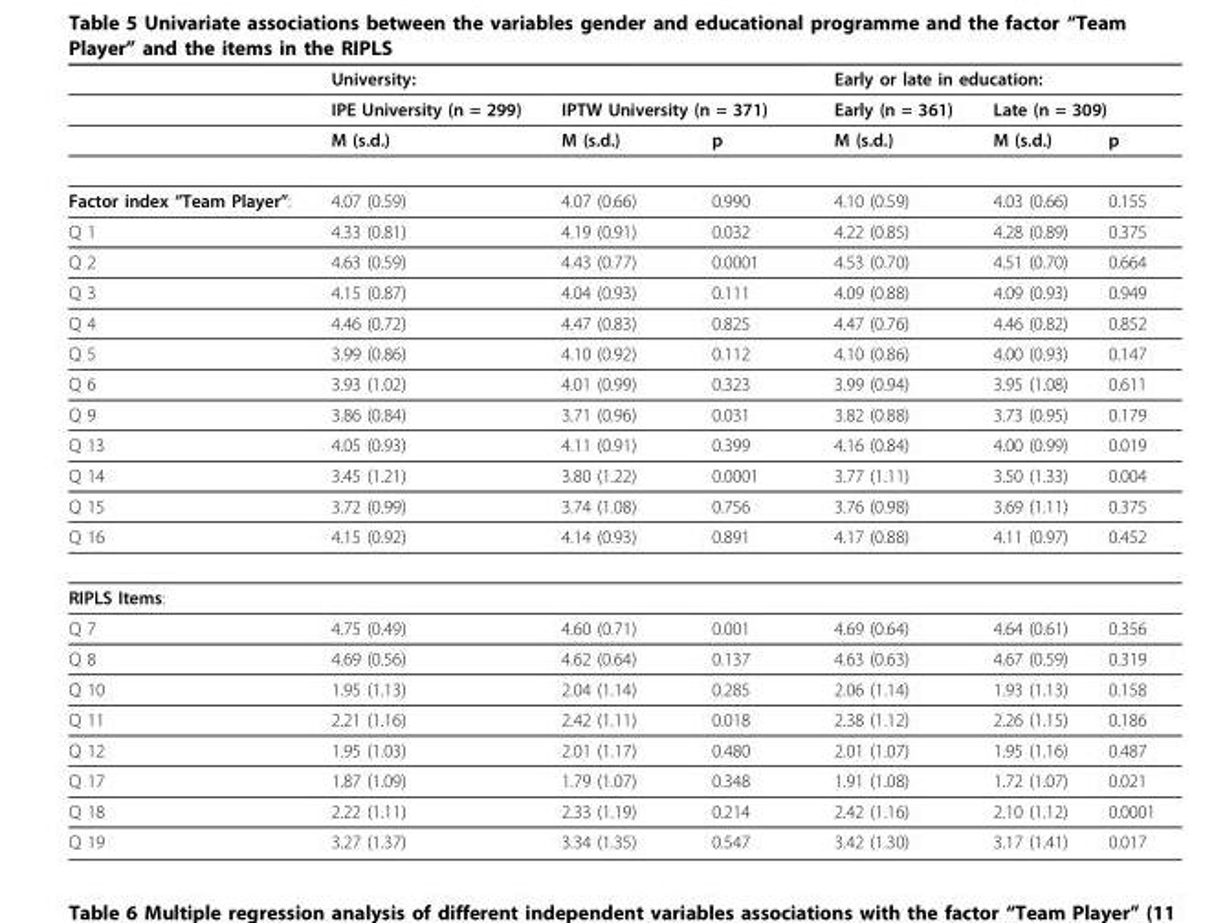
<table><thead><tr><td rowspan="3"></td><td colspan="3">University:</td><td colspan="3">Early or late in education:</td></tr><tr><td rowspan="2">IPE University (n = 299) M (s.d.)</td><td colspan="2">IPTW University (n = 371)</td><td rowspan="2">Early (n = 361) M (s.d.)</td><td colspan="2">Late (n = 309)</td></tr><tr><td>M (s.d.)</td><td>p</td><td>M (s.d.)</td><td>p</td></tr></thead><tbody><tr><td>Factor index “Team Player”:</td><td>4.07 (0.59)</td><td>4.07 (0.66)</td><td>0.990</td><td>4.10 (0.59)</td><td>4.03 (0.66)</td><td>0.155</td></tr><tr><td>Q 1</td><td>4.33 (0.81)</td><td>4.19 (0.91)</td><td>0.032</td><td>4.22 (0.85)</td><td>4.28 (0.89)</td><td>0.375</td></tr><tr><td>Q 2</td><td>4.63 (0.59)</td><td>4.43 (0.77)</td><td>0.0001</td><td>4.53 (0.70)</td><td>4.51 (0.70)</td><td>0.664</td></tr><tr><td>Q 3</td><td>4.15 (0.87)</td><td>4.04 (0.93)</td><td>0.111</td><td>4.09 (0.88)</td><td>4.09 (0.93)</td><td>0.949</td></tr><tr><td>Q 4</td><td>4.46 (0.72)</td><td>4.47 (0.83)</td><td>0.825</td><td>4.47 (0.76)</td><td>4.46 (0.82)</td><td>0.852</td></tr><tr><td>Q 5</td><td>3.99 (0.86)</td><td>4.10 (0.92)</td><td>0.112</td><td>4.10 (0.86)</td><td>4.00 (0.93)</td><td>0.147</td></tr><tr><td>Q 6</td><td>3.93 (1.02)</td><td>4.01 (0.99)</td><td>0.323</td><td>3.99 (0.94)</td><td>3.95 (1.08)</td><td>0.611</td></tr><tr><td>Q 9</td><td>3.86 (0.84)</td><td>3.71 (0.96)</td><td>0.031</td><td>3.82 (0.88)</td><td>3.73 (0.95)</td><td>0.179</td></tr><tr><td>Q 13</td><td>4.05 (0.93)</td><td>4.11 (0.91)</td><td>0.399</td><td>4.16 (0.84)</td><td>4.00 (0.99)</td><td>0.019</td></tr><tr><td>Q 14</td><td>3.45 (1.21)</td><td>3.80 (1.22)</td><td>0.0001</td><td>3.77 (1.11)</td><td>3.50 (1.33)</td><td>0.004</td></tr><tr><td>Q 15</td><td>3.72 (0.99)</td><td>3.74 (1.08)</td><td>0.756</td><td>3.76 (0.98)</td><td>3.69 (1.11)</td><td>0.375</td></tr><tr><td>Q 16</td><td>4.15 (0.92)</td><td>4.14 (0.93)</td><td>0.891</td><td>4.17 (0.88)</td><td>4.11 (0.97)</td><td>0.452</td></tr><tr><td colspan="7">RIPLS Items:</td></tr><tr><td>Q 7</td><td>4.75 (0.49)</td><td>4.60 (0.71)</td><td>0.001</td><td>4.69 (0.64)</td><td>4.64 (0.61)</td><td>0.356</td></tr><tr><td>Q 8</td><td>4.69 (0.56)</td><td>4.62 (0.64)</td><td>0.137</td><td>4.63 (0.63)</td><td>4.67 (0.59)</td><td>0.319</td></tr><tr><td>Q 10</td><td>1.95 (1.13)</td><td>2.04 (1.14)</td><td>0.285</td><td>2.06 (1.14)</td><td>1.93 (1.13)</td><td>0.158</td></tr><tr><td>Q 11</td><td>2.21 (1.16)</td><td>2.42 (1.11)</td><td>0.018</td><td>2.38 (1.12)</td><td>2.26 (1.15)</td><td>0.186</td></tr><tr><td>Q 12</td><td>1.95 (1.03)</td><td>2.01 (1.17)</td><td>0.480</td><td>2.01 (1.07)</td><td>1.95 (1.16)</td><td>0.487</td></tr><tr><td>Q 17</td><td>1.87 (1.09)</td><td>1.79 (1.07)</td><td>0.348</td><td>1.91 (1.08)</td><td>1.72 (1.07)</td><td>0.021</td></tr><tr><td>Q 18</td><td>2.22 (1.11)</td><td>2.33 (1.19)</td><td>0.214</td><td>2.42 (1.16)</td><td>2.10 (1.12)</td><td>0.0001</td></tr><tr><td>Q 19</td><td>3.27 (1.37)</td><td>3.34 (1.35)</td><td>0.547</td><td>3.42 (1.30)</td><td>3.17 (1.41)</td><td>0.017</td></tr></tbody></table>